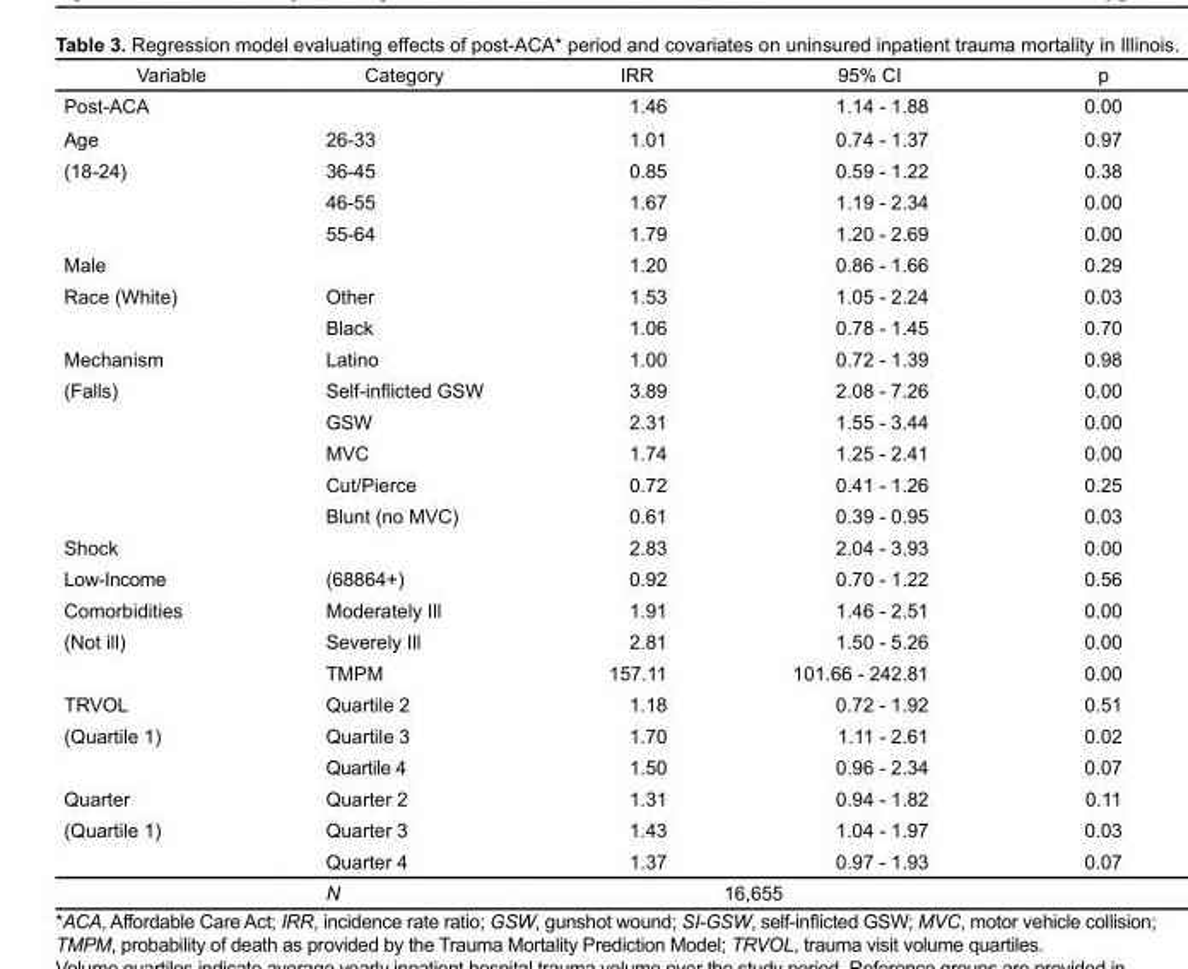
<table><thead><tr><td>Variable</td><td>Category</td><td>IRR</td><td>95% CI</td><td>p</td></tr></thead><tbody><tr><td>Post-ACA</td><td></td><td>1.46</td><td>1.14 - 1.88</td><td>0.00</td></tr><tr><td rowspan="4">Age (18-24)</td><td>26-33</td><td>1.01</td><td>0.74 - 1.37</td><td>0.97</td></tr><tr><td>36-45</td><td>0.85</td><td>0.59 - 1.22</td><td>0.38</td></tr><tr><td>46-55</td><td>1.67</td><td>1.19 - 2.34</td><td>0.00</td></tr><tr><td>55-64</td><td>1.79</td><td>1.20 - 2.69</td><td>0.00</td></tr><tr><td>Male</td><td></td><td>1.20</td><td>0.86 - 1.66</td><td>0.29</td></tr><tr><td rowspan="2">Race (White)</td><td>Other</td><td>1.53</td><td>1.05 - 2.24</td><td>0.03</td></tr><tr><td>Black</td><td>1.06</td><td>0.78 - 1.45</td><td>0.70</td></tr><tr><td rowspan="6">Mechanism (Falls)</td><td>Latino</td><td>1.00</td><td>0.72 - 1.39</td><td>0.98</td></tr><tr><td>Self-inflicted GSW</td><td>3.89</td><td>2.08 - 7.26</td><td>0.00</td></tr><tr><td>GSW</td><td>2.31</td><td>1.55 - 3.44</td><td>0.00</td></tr><tr><td>MVC</td><td>1.74</td><td>1.25 - 2.41</td><td>0.00</td></tr><tr><td>Cut/Pierce</td><td>0.72</td><td>0.41 - 1.26</td><td>0.25</td></tr><tr><td>Blunt (no MVC)</td><td>0.61</td><td>0.39 - 0.95</td><td>0.03</td></tr><tr><td>Shock</td><td></td><td>2.83</td><td>2.04 - 3.93</td><td>0.00</td></tr><tr><td>Low-Income</td><td>(68864+)</td><td>0.92</td><td>0.70 - 1.22</td><td>0.56</td></tr><tr><td rowspan="3">Comorbidities (Not ill)</td><td>Moderately Ill</td><td>1.91</td><td>1.46 - 2.51</td><td>0.00</td></tr><tr><td>Severely Ill</td><td>2.81</td><td>1.50 - 5.26</td><td>0.00</td></tr><tr><td>TMPM</td><td>157.11</td><td>101.66 - 242.81</td><td>0.00</td></tr><tr><td rowspan="3">TRVOL (Quartile 1)</td><td>Quartile 2</td><td>1.18</td><td>0.72 - 1.92</td><td>0.51</td></tr><tr><td>Quartile 3</td><td>1.70</td><td>1.11 - 2.61</td><td>0.02</td></tr><tr><td>Quartile 4</td><td>1.50</td><td>0.96 - 2.34</td><td>0.07</td></tr><tr><td rowspan="4">Quarter (Quartile 1)</td><td>Quarter 2</td><td>1.31</td><td>0.94 - 1.82</td><td>0.11</td></tr><tr><td>Quarter 3</td><td>1.43</td><td>1.04 - 1.97</td><td>0.03</td></tr><tr><td>Quarter 4</td><td>1.37</td><td>0.97 - 1.93</td><td>0.07</td></tr><tr><td>N</td><td colspan="2">16,655</td><td></td></tr></tbody></table>